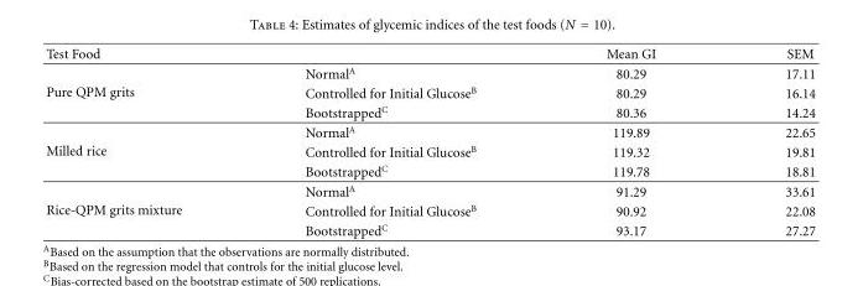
<table><thead><tr><td>Test Food</td><td></td><td>Mean GI</td><td>SEM</td></tr></thead><tbody><tr><td rowspan="3">Pure QPM grits</td><td>Normal<sup>A</sup></td><td>80.29</td><td>17.11</td></tr><tr><td>Controlled for Initial Glucose<sup>B</sup></td><td>80.29</td><td>16.14</td></tr><tr><td>Bootstrapped<sup>C</sup></td><td>80.36</td><td>14.24</td></tr><tr><td rowspan="3">Milled rice</td><td>Normal<sup>A</sup></td><td>119.89</td><td>22.65</td></tr><tr><td>Controlled for Initial Glucose<sup>B</sup></td><td>119.32</td><td>19.81</td></tr><tr><td>Bootstrapped<sup>C</sup></td><td>119.78</td><td>18.81</td></tr><tr><td rowspan="3">Rice-QPM grits mixture</td><td>Normal<sup>A</sup></td><td>91.29</td><td>33.61</td></tr><tr><td>Controlled for Initial Glucose<sup>B</sup></td><td>90.92</td><td>22.08</td></tr><tr><td>Bootstrapped<sup>C</sup></td><td>93.17</td><td>27.27</td></tr></tbody></table>